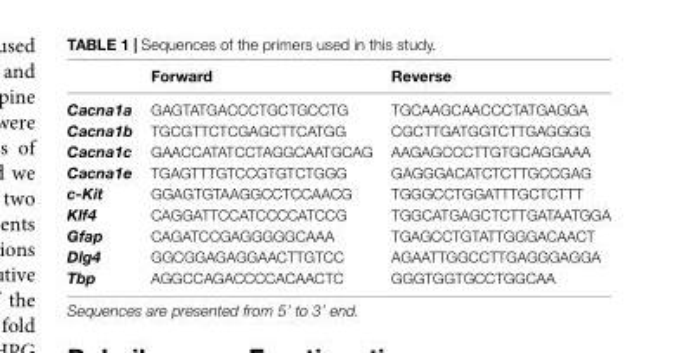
<table><thead><tr><td></td><td>Forward</td><td>Reverse</td></tr></thead><tbody><tr><td>Cacna1a</td><td>GAGTATGACCCTGCTGCCTG</td><td>TGCAAGCAACCCTATGAGGA</td></tr><tr><td>Cacna1b</td><td>TGCGTTCTCGAGCTTCATGG</td><td>CGCTTGATGGTCTTGAGGGG</td></tr><tr><td>Cacna1c</td><td>GAACCATATCCTAGGCAATGCAG</td><td>AAGAGCCCTTGTGCAGGAAA</td></tr><tr><td>Cacna1e</td><td>TGAGTTTGTCCGTGTCTGGG</td><td>GAGGGACATCTCTTGCCGAG</td></tr><tr><td>c-Kit</td><td>GGAGTGTAAGGCCTCCAACG</td><td>TGGGCCTGGATTTGCTCTTT</td></tr><tr><td>Klf4</td><td>CAGGATTCCATCCCCATCCG</td><td>TGGCATGAGCTCTTGATAATGGA</td></tr><tr><td>Gfap</td><td>CAGATCCGAGGGGGCAAA</td><td>TGAGCCTGTATTGGGACAACT</td></tr><tr><td>Dlg4</td><td>GGCGGAGAGGAACTTGTCC</td><td>AGAATTGGCCTTGAGGGAGGA</td></tr><tr><td>Tbp</td><td>AGGCCAGACCCCACAACTC</td><td>GGGTGGTGCCTGGCAA</td></tr></tbody></table>